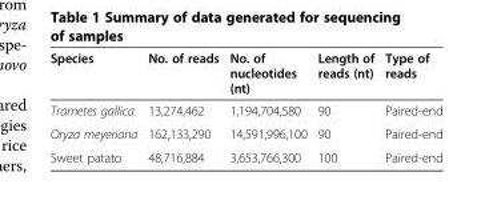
<table><thead><tr><td>Species</td><td>No. of reads</td><td>No. of nucleotides (nt)</td><td>Length of reads (nt)</td><td>Type of reads</td></tr></thead><tbody><tr><td>Trametes gallica</td><td>13,274,462</td><td>1,194,704,580</td><td>90</td><td>Paired-end</td></tr><tr><td>Oryza meyeriana</td><td>162,133,290</td><td>14,591,996,100</td><td>90</td><td>Paired-end</td></tr><tr><td>Sweet patato</td><td>48,716,884</td><td>3,653,766,300</td><td>100</td><td>Paired-end</td></tr></tbody></table>